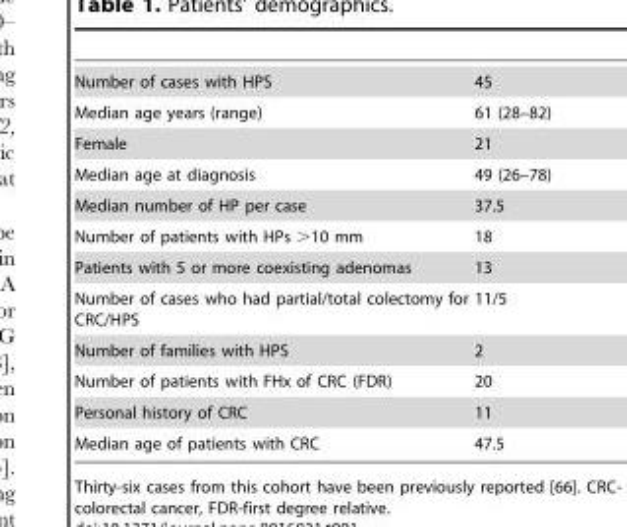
<table><tbody><tr><td>Number of cases with HPS</td><td>45</td></tr><tr><td>Median age years (range)</td><td>61 (28–82)</td></tr><tr><td>Female</td><td>21</td></tr><tr><td>Median age at diagnosis</td><td>49 (26–78)</td></tr><tr><td>Median number of HP per case</td><td>37.5</td></tr><tr><td>Number of patients with HPs &gt;10 mm</td><td>18</td></tr><tr><td>Patients with 5 or more coexisting adenomas</td><td>13</td></tr><tr><td>Number of cases who had partial/total colectomy for CRC/HPS</td><td>11/5</td></tr><tr><td>Number of families with HPS</td><td>2</td></tr><tr><td>Number of patients with FHx of CRC (FDR)</td><td>20</td></tr><tr><td>Personal history of CRC</td><td>11</td></tr><tr><td>Median age of patients with CRC</td><td>47.5</td></tr></tbody></table>